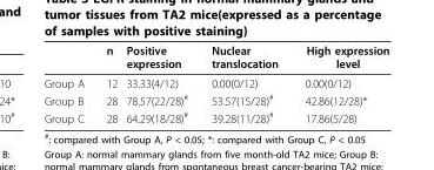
<table><thead><tr><td></td><td>n</td><td>Positive expression</td><td>Nuclear translocation</td><td>High expression level</td></tr></thead><tbody><tr><td>Group A</td><td>12</td><td>33.33(4/12)</td><td>0.00(0/12)</td><td>0.00(0/12)</td></tr><tr><td>Group B</td><td>28</td><td>78.57(22/28)<sup>#</sup></td><td>53.57(15/28)<sup>#</sup></td><td>42.86(12/28)*</td></tr><tr><td>Group C</td><td>28</td><td>64.29(18/28)<sup>#</sup></td><td>39.28(11/28)<sup>#</sup></td><td>17.86(5/28)</td></tr></tbody></table>